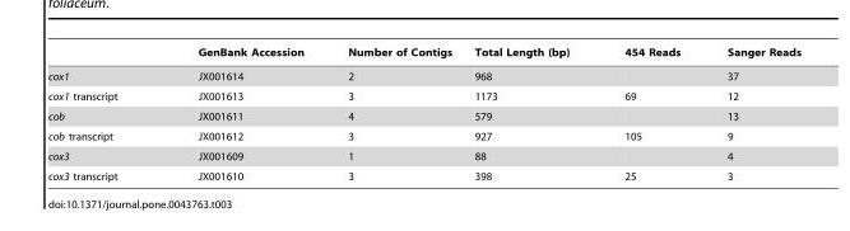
<table><thead><tr><td></td><td>GenBank Accession</td><td>Number of Contigs</td><td>Total Length (bp)</td><td>454 Reads</td><td>Sanger Reads</td></tr></thead><tbody><tr><td>cox1</td><td>JX001614</td><td>2</td><td>968</td><td></td><td>37</td></tr><tr><td>cox1 transcript</td><td>JX001613</td><td>3</td><td>1173</td><td>69</td><td>12</td></tr><tr><td>cob</td><td>JX001611</td><td>4</td><td>579</td><td></td><td>13</td></tr><tr><td>cob transcript</td><td>JX001612</td><td>3</td><td>927</td><td>105</td><td>9</td></tr><tr><td>cox3</td><td>JX001609</td><td>1</td><td>88</td><td></td><td>4</td></tr><tr><td>cox3 transcript</td><td>JX001610</td><td>3</td><td>398</td><td>25</td><td>3</td></tr></tbody></table>